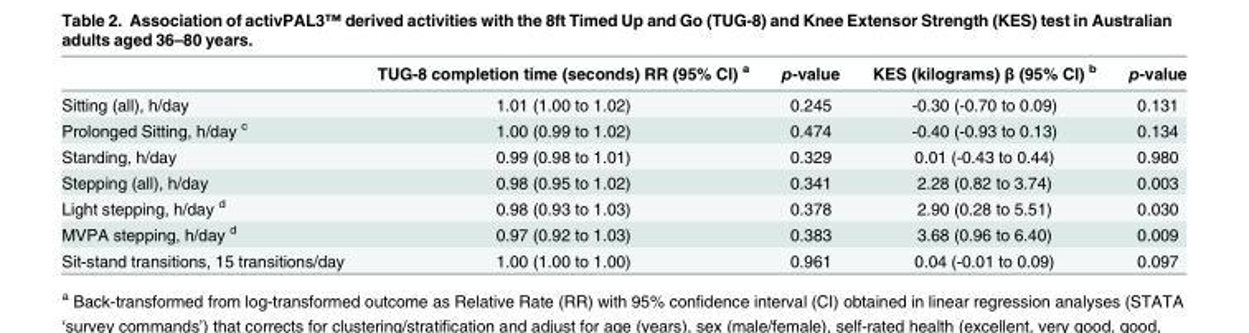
<table><thead><tr><td></td><td>TUG-8 completion time (seconds) RR (95% CI) <sup>a</sup></td><td>p-value</td><td>KES (kilograms) β (95% CI) <sup>b</sup></td><td>p-value</td></tr></thead><tbody><tr><td>Sitting (all), h/day</td><td>1.01 (1.00 to 1.02)</td><td>0.245</td><td>-0.30 (-0.70 to 0.09)</td><td>0.131</td></tr><tr><td>Prolonged Sitting, h/day <sup>c</sup></td><td>1.00 (0.99 to 1.02)</td><td>0.474</td><td>-0.40 (-0.93 to 0.13)</td><td>0.134</td></tr><tr><td>Standing, h/day</td><td>0.99 (0.98 to 1.01)</td><td>0.329</td><td>0.01 (-0.43 to 0.44)</td><td>0.980</td></tr><tr><td>Stepping (all), h/day</td><td>0.98 (0.95 to 1.02)</td><td>0.341</td><td>2.28 (0.82 to 3.74)</td><td>0.003</td></tr><tr><td>Light stepping, h/day <sup>d</sup></td><td>0.98 (0.93 to 1.03)</td><td>0.378</td><td>2.90 (0.28 to 5.51)</td><td>0.030</td></tr><tr><td>MVPA stepping, h/day <sup>d</sup></td><td>0.97 (0.92 to 1.03)</td><td>0.383</td><td>3.68 (0.96 to 6.40)</td><td>0.009</td></tr><tr><td>Sit-stand transitions, 15 transitions/day</td><td>1.00 (1.00 to 1.00)</td><td>0.961</td><td>0.04 (-0.01 to 0.09)</td><td>0.097</td></tr></tbody></table>